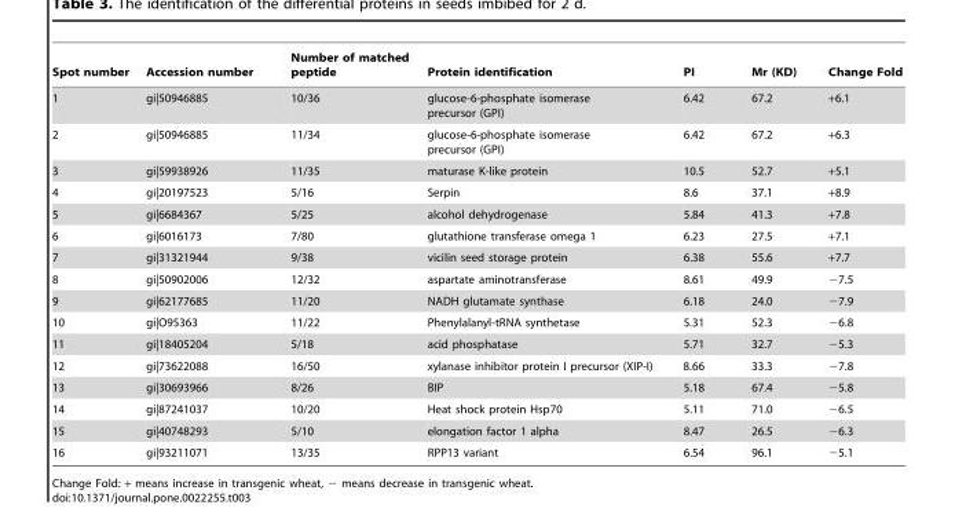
<table><thead><tr><td>Spot number</td><td>Accession number</td><td>Number of matched peptide</td><td>Protein identification</td><td>PI</td><td>Mr (KD)</td><td>Change Fold</td></tr></thead><tbody><tr><td>1</td><td>gi|50946885</td><td>10/36</td><td>glucose-6-phosphate isomerase precursor (GPI)</td><td>6.42</td><td>67.2</td><td>+6.1</td></tr><tr><td>2</td><td>gi|50946885</td><td>11/34</td><td>glucose-6-phosphate isomerase precursor (GPI)</td><td>6.42</td><td>67.2</td><td>+6.3</td></tr><tr><td>3</td><td>gi|59938926</td><td>11/35</td><td>maturase K-like protein</td><td>10.5</td><td>52.7</td><td>+5.1</td></tr><tr><td>4</td><td>gi|20197523</td><td>5/16</td><td>Serpin</td><td>8.6</td><td>37.1</td><td>+8.9</td></tr><tr><td>5</td><td>gi|6684367</td><td>5/25</td><td>alcohol dehydrogenase</td><td>5.84</td><td>41.3</td><td>+7.8</td></tr><tr><td>6</td><td>gi|6016173</td><td>7/80</td><td>glutathione transferase omega 1</td><td>6.23</td><td>27.5</td><td>+7.1</td></tr><tr><td>7</td><td>gi|31321944</td><td>9/38</td><td>vicilin seed storage protein</td><td>6.38</td><td>55.6</td><td>+7.7</td></tr><tr><td>8</td><td>gi|50902006</td><td>12/32</td><td>aspartate aminotransferase</td><td>8.61</td><td>49.9</td><td>−7.5</td></tr><tr><td>9</td><td>gi|62177685</td><td>11/20</td><td>NADH glutamate synthase</td><td>6.18</td><td>24.0</td><td>−7.9</td></tr><tr><td>10</td><td>gi|O95363</td><td>11/22</td><td>Phenylalanyl-tRNA synthetase</td><td>5.31</td><td>52.3</td><td>−6.8</td></tr><tr><td>11</td><td>gi|18405204</td><td>5/18</td><td>acid phosphatase</td><td>5.71</td><td>32.7</td><td>−5.3</td></tr><tr><td>12</td><td>gi|73622088</td><td>16/50</td><td>xylanase inhibitor protein I precursor (XIP-I)</td><td>8.66</td><td>33.3</td><td>−7.8</td></tr><tr><td>13</td><td>gi|30693966</td><td>8/26</td><td>BIP</td><td>5.18</td><td>67.4</td><td>−5.8</td></tr><tr><td>14</td><td>gi|87241037</td><td>10/20</td><td>Heat shock protein Hsp70</td><td>5.11</td><td>71.0</td><td>−6.5</td></tr><tr><td>15</td><td>gi|40748293</td><td>5/10</td><td>elongation factor 1 alpha</td><td>8.47</td><td>26.5</td><td>−6.3</td></tr><tr><td>16</td><td>gi|93211071</td><td>13/35</td><td>RPP13 variant</td><td>6.54</td><td>96.1</td><td>−5.1</td></tr></tbody></table>